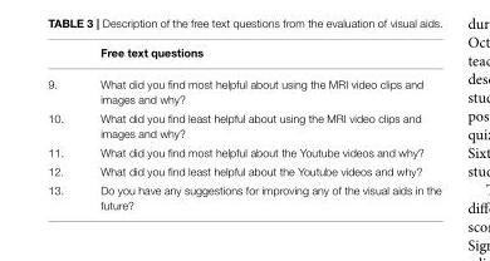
<table><thead><tr><td></td><td>Free text questions</td></tr></thead><tbody><tr><td>9.</td><td>What did you find most helpful about using the MRI video clips and images and why?</td></tr><tr><td>10.</td><td>What did you find least helpful about using the MRI video clips and images and why?</td></tr><tr><td>11.</td><td>What did you find most helpful about the Youtube videos and why?</td></tr><tr><td>12.</td><td>What did you find least helpful about the Youtube videos and why?</td></tr><tr><td>13.</td><td>Do you have any suggestions for improving any of the visual aids in the future?</td></tr></tbody></table>